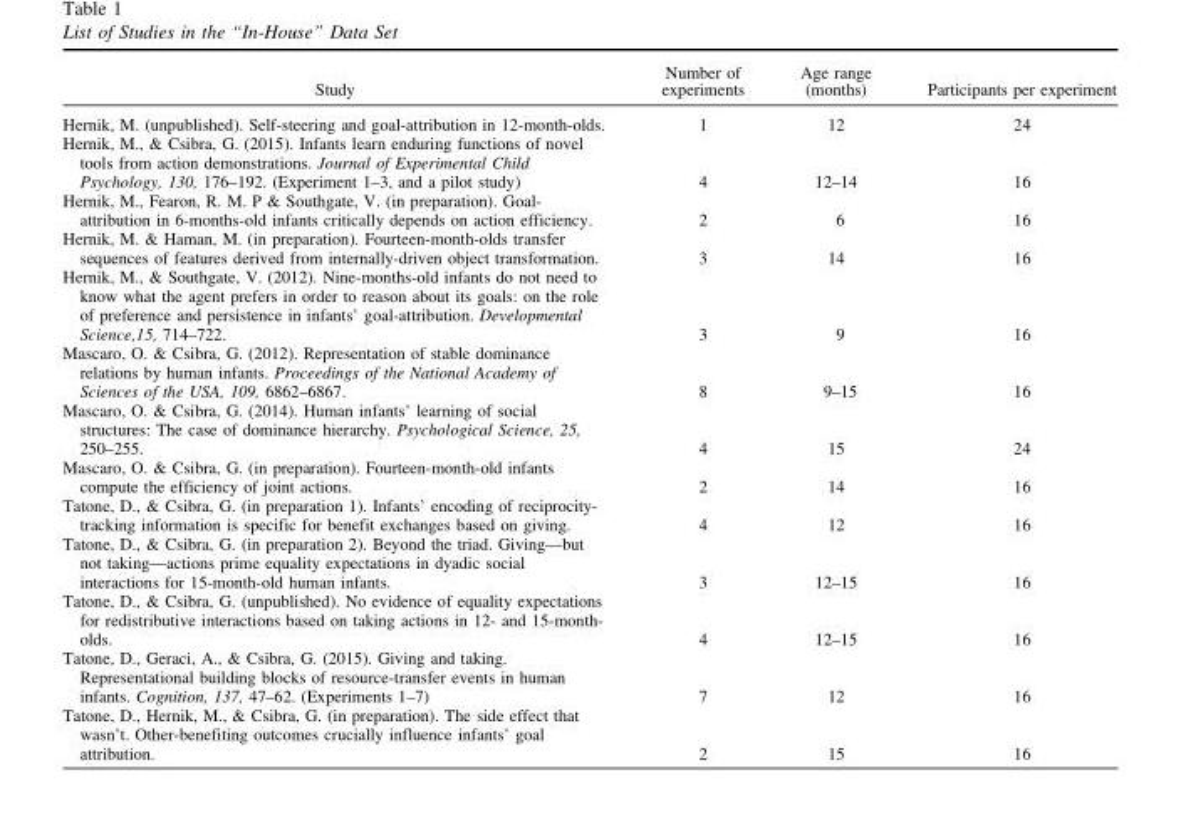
<table><thead><tr><td>Study</td><td>Number of experiments</td><td>Age range (months)</td><td>Participants per experiment</td></tr></thead><tbody><tr><td>Hernik, M. (unpublished). Self-steering and goal-attribution in 12-month-olds.</td><td>1</td><td>12</td><td>24</td></tr><tr><td>Hernik, M., &amp; Csibra, G. (2015). Infants learn enduring functions of novel tools from action demonstrations. Journal of Experimental Child Psychology, 130, 176–192. (Experiment 1–3, and a pilot study)</td><td>4</td><td>12–14</td><td>16</td></tr><tr><td>Hernik, M., Fearon, R. M. P &amp; Southgate, V. (in preparation). Goal- attribution in 6-months-old infants critically depends on action efficiency.</td><td>2</td><td>6</td><td>16</td></tr><tr><td>Hernik, M. &amp; Haman, M. (in preparation). Fourteen-month-olds transfer sequences of features derived from internally-driven object transformation.</td><td>3</td><td>14</td><td>16</td></tr><tr><td>Hernik, M., &amp; Southgate, V. (2012). Nine-months-old infants do not need to know what the agent prefers in order to reason about its goals: on the role of preference and persistence in infants’ goal-attribution. Developmental Science,15, 714–722.</td><td>3</td><td>9</td><td>16</td></tr><tr><td>Mascaro, O. &amp; Csibra, G. (2012). Representation of stable dominance relations by human infants. Proceedings of the National Academy of Sciences of the USA, 109, 6862–6867.</td><td>8</td><td>9–15</td><td>16</td></tr><tr><td>Mascaro, O. &amp; Csibra, G. (2014). Human infants’ learning of social structures: The case of dominance hierarchy. Psychological Science, 25, 250–255.</td><td>4</td><td>15</td><td>24</td></tr><tr><td>Mascaro, O. &amp; Csibra, G. (in preparation). Fourteen-month-old infants compute the efficiency of joint actions.</td><td>2</td><td>14</td><td>16</td></tr><tr><td>Tatone, D., &amp; Csibra, G. (in preparation 1). Infants’ encoding of reciprocity- tracking information is specific for benefit exchanges based on giving.</td><td>4</td><td>12</td><td>16</td></tr><tr><td>Tatone, D., &amp; Csibra, G. (in preparation 2). Beyond the triad. Giving—but not taking—actions prime equality expectations in dyadic social interactions for 15-month-old human infants.</td><td>3</td><td>12–15</td><td>16</td></tr><tr><td>Tatone, D., &amp; Csibra, G. (unpublished). No evidence of equality expectations for redistributive interactions based on taking actions in 12- and 15-month- olds.</td><td>4</td><td>12–15</td><td>16</td></tr><tr><td>Tatone, D., Geraci, A., &amp; Csibra, G. (2015). Giving and taking. Representational building blocks of resource-transfer events in human infants. Cognition, 137, 47–62. (Experiments 1–7)</td><td>7</td><td>12</td><td>16</td></tr><tr><td>Tatone, D., Hernik, M., &amp; Csibra, G. (in preparation). The side effect that wasn’t. Other-benefiting outcomes crucially influence infants’ goal attribution.</td><td>2</td><td>15</td><td>16</td></tr></tbody></table>